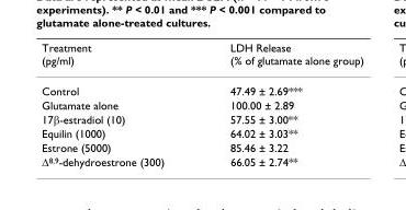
<table><thead><tr><td>Treatment (pg/ml)</td><td>LDH Release (% of glutamate alone group)</td></tr></thead><tbody><tr><td>Control</td><td>47.49 ± 2.69***</td></tr><tr><td>Glutamate alone</td><td>100.00 ± 2.89</td></tr><tr><td>17β-estradiol (10)</td><td>57.55 ± 3.00**</td></tr><tr><td>Equilin (1000)</td><td>64.02 ± 3.03**</td></tr><tr><td>Estrone (5000)</td><td>85.46 ± 3.22</td></tr><tr><td>∆8,9-dehydroestrone (300)</td><td>66.05 ± 2.74**</td></tr></tbody></table>